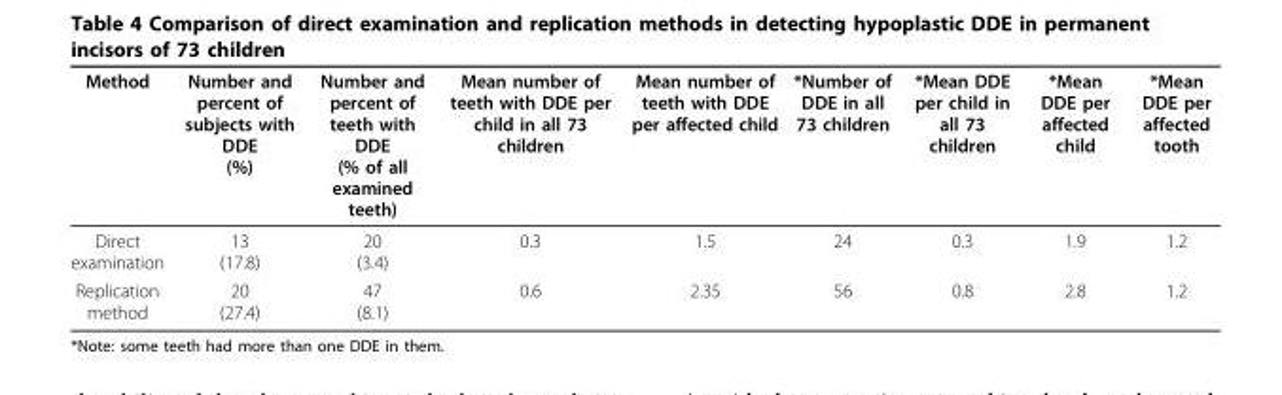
<table><thead><tr><td>Method</td><td>Number and percent of subjects with DDE (%)</td><td>Number and percent of teeth with DDE (% of all examined teeth)</td><td>Mean number of teeth with DDE per child in all 73 children</td><td>Mean number of teeth with DDE per affected child</td><td>*Number of DDE in all 73 children</td><td>*Mean DDE per child in all 73 children</td><td>*Mean DDE per affected child</td><td>*Mean DDE per affected tooth</td></tr></thead><tbody><tr><td>Direct examination</td><td>13 (17.8)</td><td>20 (3.4)</td><td>0.3</td><td>1.5</td><td>24</td><td>0.3</td><td>1.9</td><td>1.2</td></tr><tr><td>Replication method</td><td>20 (27.4)</td><td>47 (8.1)</td><td>0.6</td><td>2.35</td><td>56</td><td>0.8</td><td>2.8</td><td>1.2</td></tr></tbody></table>